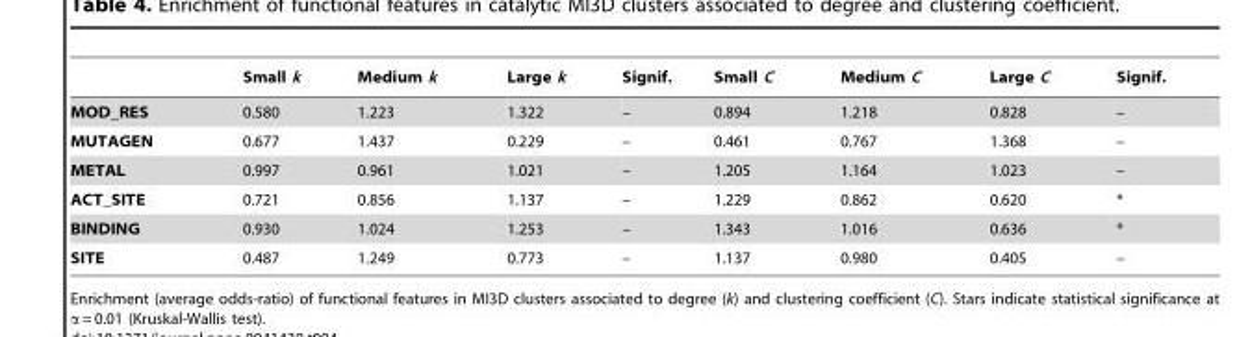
<table><thead><tr><td></td><td>Small k</td><td>Medium k</td><td>Large k</td><td>Signif.</td><td>Small C</td><td>Medium C</td><td>Large C</td><td>Signif.</td></tr></thead><tbody><tr><td>MOD_RES</td><td>0.580</td><td>1.223</td><td>1.322</td><td>–</td><td>0.894</td><td>1.218</td><td>0.828</td><td>–</td></tr><tr><td>MUTAGEN</td><td>0.677</td><td>1.437</td><td>0.229</td><td>–</td><td>0.461</td><td>0.767</td><td>1.368</td><td>–</td></tr><tr><td>METAL</td><td>0.997</td><td>0.961</td><td>1.021</td><td>–</td><td>1.205</td><td>1.164</td><td>1.023</td><td>–</td></tr><tr><td>ACT_SITE</td><td>0.721</td><td>0.856</td><td>1.137</td><td>–</td><td>1.229</td><td>0.862</td><td>0.620</td><td>*</td></tr><tr><td>BINDING</td><td>0.930</td><td>1.024</td><td>1.253</td><td>–</td><td>1.343</td><td>1.016</td><td>0.636</td><td>*</td></tr><tr><td>SITE</td><td>0.487</td><td>1.249</td><td>0.773</td><td>–</td><td>1.137</td><td>0.980</td><td>0.405</td><td>–</td></tr></tbody></table>